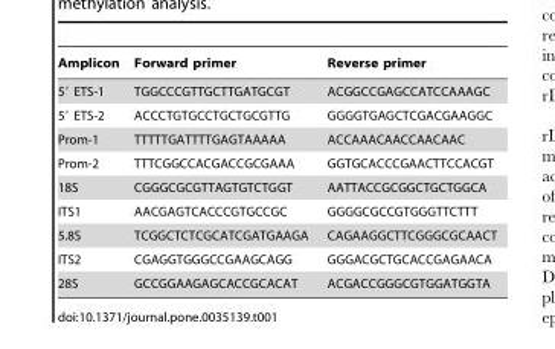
<table><thead><tr><td>Amplicon</td><td>Forward primer</td><td>Reverse primer</td></tr></thead><tbody><tr><td>5′ ETS-1</td><td>TGGCCCGTTGCTTGATGCGT</td><td>ACGGCCGAGCCATCCAAAGC</td></tr><tr><td>5′ ETS-2</td><td>ACCCTGTGCCTGCTGCGTTG</td><td>GGGGTGAGCTCGACGAAGGC</td></tr><tr><td>Prom-1</td><td>TTTTTGATTTTGAGTAAAAA</td><td>ACCAAACAACCAACAAC</td></tr><tr><td>Prom-2</td><td>TTTCGGCCACGACCGCGAAA</td><td>GGTGCACCCGAACTTCCACGT</td></tr><tr><td>18S</td><td>CGGGCGCGTTAGTGTCTGGT</td><td>AATTACCGCGGCTGCTGGCA</td></tr><tr><td>ITS1</td><td>AACGAGTCACCCGTGCCGC</td><td>GGGGCGCCGTGGGTTCTTT</td></tr><tr><td>5.8S</td><td>TCGGCTCTCGCATCGATGAAGA</td><td>CAGAAGGCTTCGGGCGCAACT</td></tr><tr><td>ITS2</td><td>CGAGGTGGGCCGAAGCAGG</td><td>GGGACGCTGCACCGAGAACA</td></tr><tr><td>28S</td><td>GCCGGAAGAGCACCGCACAT</td><td>ACGACCGGGCGTGGATGGTA</td></tr></tbody></table>